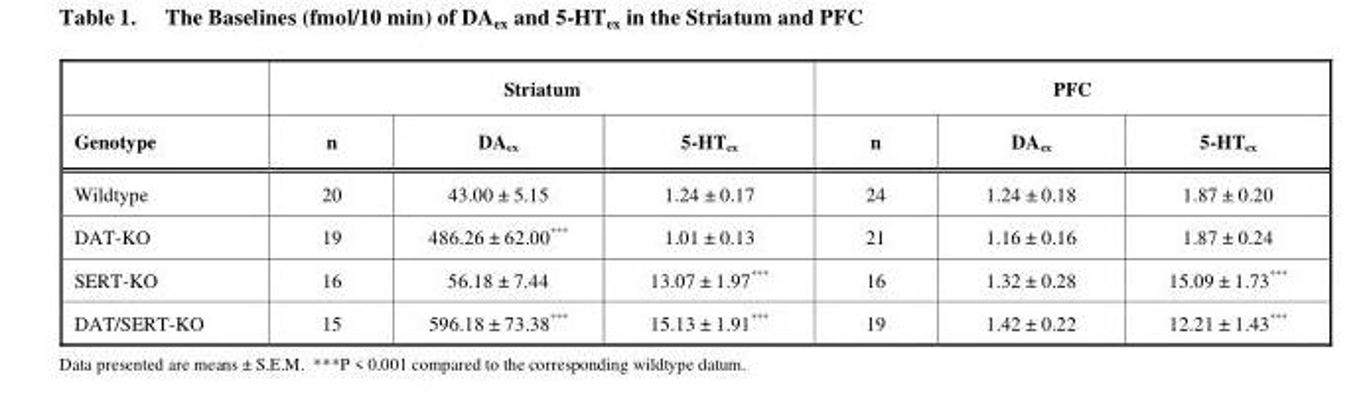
<table><thead><tr><td rowspan="2">Genotype</td><td colspan="3">Striatum</td><td colspan="3">PFC</td></tr><tr><td>n</td><td>DA<sub>ex</sub></td><td>5-HT<sub>ex</sub></td><td>n</td><td>DA<sub>ex</sub></td><td>5-HT<sub>ex</sub></td></tr></thead><tbody><tr><td>Wildtype</td><td>20</td><td>43.00 ± 5.15</td><td>1.24 ± 0.17</td><td>24</td><td>1.24 ± 0.18</td><td>1.87 ± 0.20</td></tr><tr><td>DAT-KO</td><td>19</td><td>486.26 ± 62.00***</td><td>1.01 ± 0.13</td><td>21</td><td>1.16 ± 0.16</td><td>1.87 ± 0.24</td></tr><tr><td>SERT-KO</td><td>16</td><td>56.18 ± 7.44</td><td>13.07 ± 1.97***</td><td>16</td><td>1.32 ± 0.28</td><td>15.09 ± 1.73***</td></tr><tr><td>DAT/SERT-KO</td><td>15</td><td>596.18 ± 73.38***</td><td>15.13 ± 1.91***</td><td>19</td><td>1.42 ± 0.22</td><td>12.21 ± 1.43***</td></tr></tbody></table>